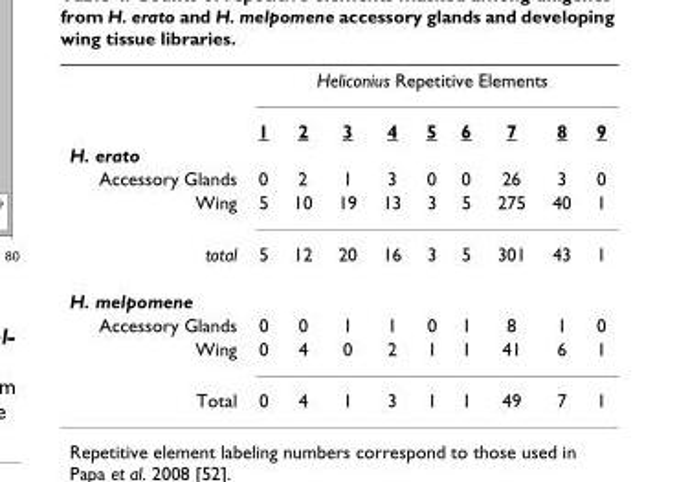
<table><thead><tr><td rowspan="2"></td><td colspan="9">Heliconius Repetitive Elements</td></tr><tr><td>1</td><td>2</td><td>3</td><td>4</td><td>5</td><td>6</td><td>7</td><td>8</td><td>9</td></tr></thead><tbody><tr><td colspan="10">H. erato</td></tr><tr><td>Accessory Glands</td><td>0</td><td>2</td><td>1</td><td>3</td><td>0</td><td>0</td><td>26</td><td>3</td><td>0</td></tr><tr><td>Wing</td><td>5</td><td>10</td><td>19</td><td>13</td><td>3</td><td>5</td><td>275</td><td>40</td><td>1</td></tr><tr><td>total</td><td>5</td><td>12</td><td>20</td><td>16</td><td>3</td><td>5</td><td>301</td><td>43</td><td>1</td></tr><tr><td colspan="10">H. melpomene</td></tr><tr><td>Accessory Glands</td><td>0</td><td>0</td><td>1</td><td>1</td><td>0</td><td>1</td><td>8</td><td>1</td><td>0</td></tr><tr><td>Wing</td><td>0</td><td>4</td><td>0</td><td>2</td><td>1</td><td>1</td><td>41</td><td>6</td><td>1</td></tr><tr><td>Total</td><td>0</td><td>4</td><td>1</td><td>3</td><td>1</td><td>1</td><td>49</td><td>7</td><td>1</td></tr></tbody></table>